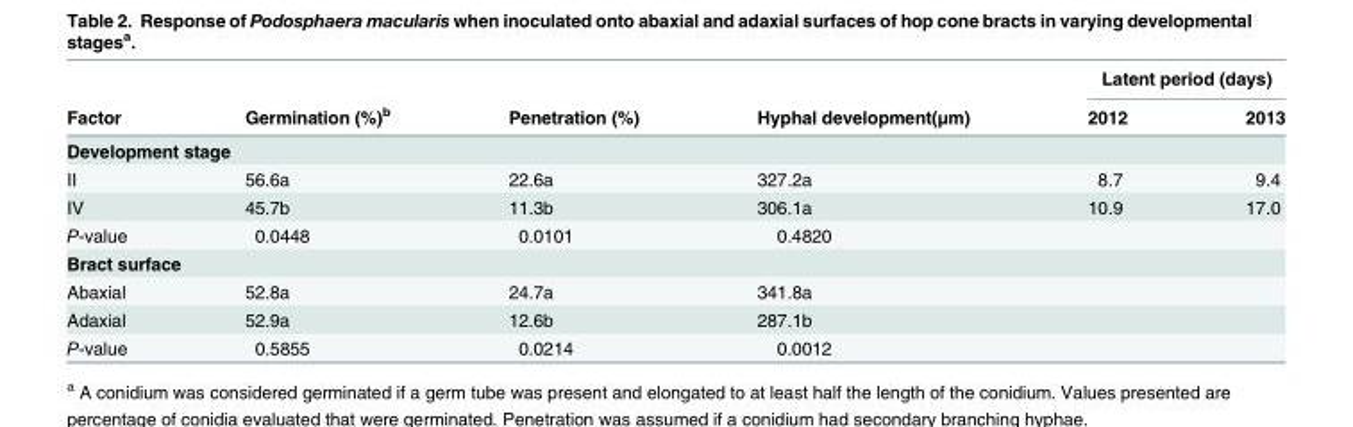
<table><thead><tr><td rowspan="2">Factor</td><td rowspan="2">Germination (%)<sup>b</sup></td><td rowspan="2">Penetration (%)</td><td rowspan="2">Hyphal development(μm)</td><td colspan="2">Latent period (days)</td></tr><tr><td>2012</td><td>2013</td></tr></thead><tbody><tr><td colspan="6">Development stage</td></tr><tr><td>II</td><td>56.6a</td><td>22.6a</td><td>327.2a</td><td>8.7</td><td>9.4</td></tr><tr><td>IV</td><td>45.7b</td><td>11.3b</td><td>306.1a</td><td>10.9</td><td>17.0</td></tr><tr><td>P-value</td><td>0.0448</td><td>0.0101</td><td>0.4820</td><td></td><td></td></tr><tr><td colspan="6">Bract surface</td></tr><tr><td>Abaxial</td><td>52.8a</td><td>24.7a</td><td>341.8a</td><td></td><td></td></tr><tr><td>Adaxial</td><td>52.9a</td><td>12.6b</td><td>287.1b</td><td></td><td></td></tr><tr><td>P-value</td><td>0.5855</td><td>0.0214</td><td>0.0012</td><td></td><td></td></tr></tbody></table>